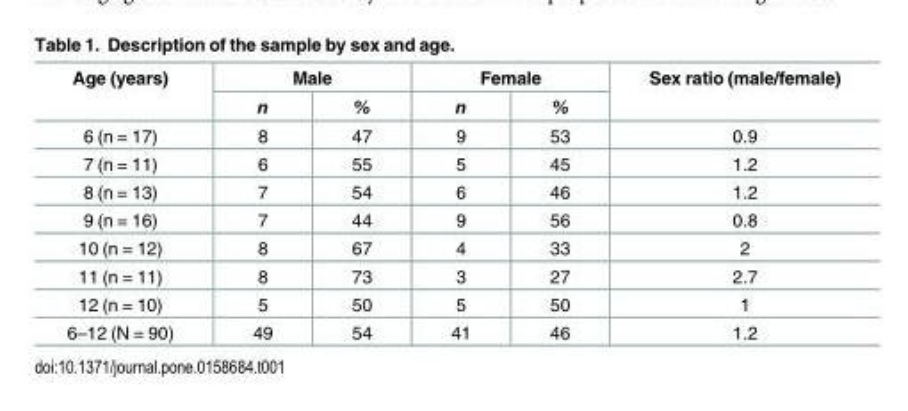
<table><thead><tr><td rowspan="2">Age (years)</td><td colspan="2">Male</td><td colspan="2">Female</td><td rowspan="2">Sex ratio (male/female)</td></tr><tr><td>n</td><td>%</td><td>n</td><td>%</td></tr></thead><tbody><tr><td>6 (n = 17)</td><td>8</td><td>47</td><td>9</td><td>53</td><td>0.9</td></tr><tr><td>7 (n = 11)</td><td>6</td><td>55</td><td>5</td><td>45</td><td>1.2</td></tr><tr><td>8 (n = 13)</td><td>7</td><td>54</td><td>6</td><td>46</td><td>1.2</td></tr><tr><td>9 (n = 16)</td><td>7</td><td>44</td><td>9</td><td>56</td><td>0.8</td></tr><tr><td>10 (n = 12)</td><td>8</td><td>67</td><td>4</td><td>33</td><td>2</td></tr><tr><td>11 (n = 11)</td><td>8</td><td>73</td><td>3</td><td>27</td><td>2.7</td></tr><tr><td>12 (n = 10)</td><td>5</td><td>50</td><td>5</td><td>50</td><td>1</td></tr><tr><td>6–12 (N = 90)</td><td>49</td><td>54</td><td>41</td><td>46</td><td>1.2</td></tr></tbody></table>